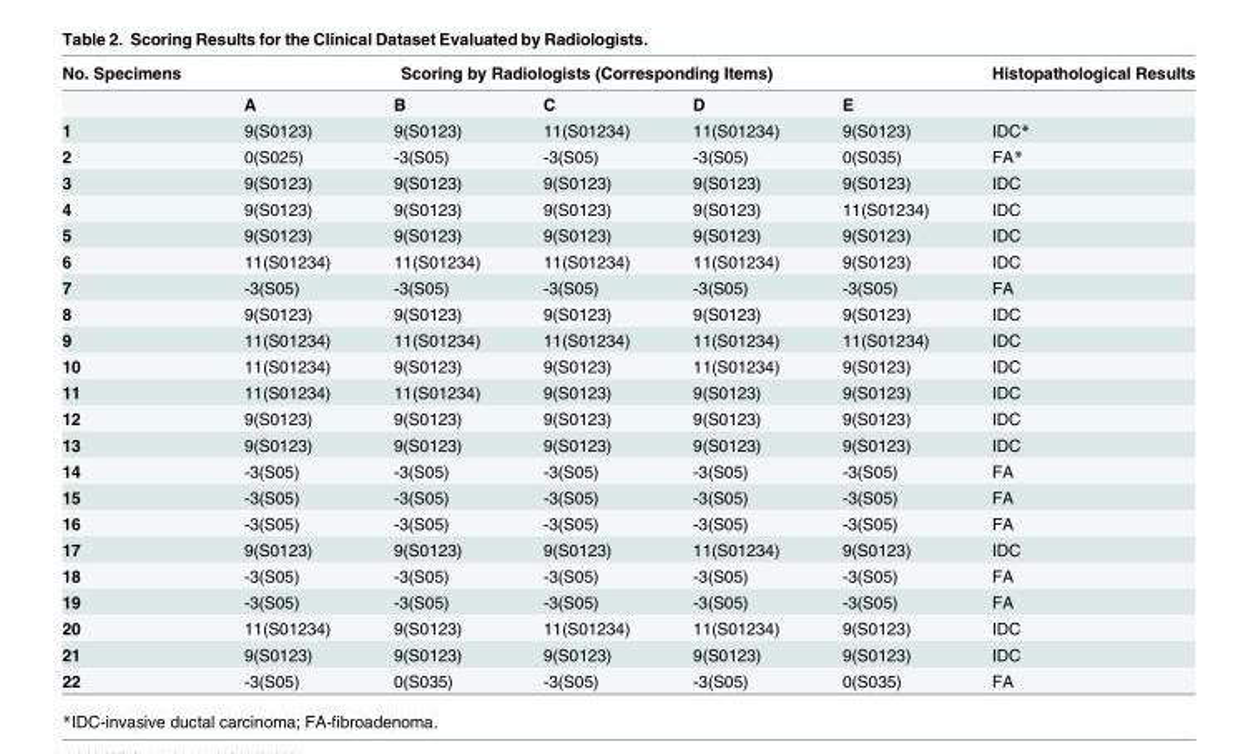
<table><thead><tr><td rowspan="2">No. Specimens</td><td colspan="5">Scoring by Radiologists (Corresponding Items)</td><td rowspan="2">Histopathological Results</td></tr><tr><td>A</td><td>B</td><td>C</td><td>D</td><td>E</td></tr></thead><tbody><tr><td>1</td><td>9(S0123)</td><td>9(S0123)</td><td>11(S01234)</td><td>11(S01234)</td><td>9(S0123)</td><td>IDC*</td></tr><tr><td>2</td><td>0(S025)</td><td>-3(S05)</td><td>-3(S05)</td><td>-3(S05)</td><td>0(S035)</td><td>FA*</td></tr><tr><td>3</td><td>9(S0123)</td><td>9(S0123)</td><td>9(S0123)</td><td>9(S0123)</td><td>9(S0123)</td><td>IDC</td></tr><tr><td>4</td><td>9(S0123)</td><td>9(S0123)</td><td>9(S0123)</td><td>9(S0123)</td><td>11(S01234)</td><td>IDC</td></tr><tr><td>5</td><td>9(S0123)</td><td>9(S0123)</td><td>9(S0123)</td><td>9(S0123)</td><td>9(S0123)</td><td>IDC</td></tr><tr><td>6</td><td>11(S01234)</td><td>11(S01234)</td><td>11(S01234)</td><td>11(S01234)</td><td>9(S0123)</td><td>IDC</td></tr><tr><td>7</td><td>-3(S05)</td><td>-3(S05)</td><td>-3(S05)</td><td>-3(S05)</td><td>-3(S05)</td><td>FA</td></tr><tr><td>8</td><td>9(S0123)</td><td>9(S0123)</td><td>9(S0123)</td><td>9(S0123)</td><td>9(S0123)</td><td>IDC</td></tr><tr><td>9</td><td>11(S01234)</td><td>11(S01234)</td><td>11(S01234)</td><td>11(S01234)</td><td>11(S01234)</td><td>IDC</td></tr><tr><td>10</td><td>11(S01234)</td><td>9(S0123)</td><td>9(S0123)</td><td>11(S01234)</td><td>9(S0123)</td><td>IDC</td></tr><tr><td>11</td><td>11(S01234)</td><td>11(S01234)</td><td>9(S0123)</td><td>9(S0123)</td><td>9(S0123)</td><td>IDC</td></tr><tr><td>12</td><td>9(S0123)</td><td>9(S0123)</td><td>9(S0123)</td><td>9(S0123)</td><td>9(S0123)</td><td>IDC</td></tr><tr><td>13</td><td>9(S0123)</td><td>9(S0123)</td><td>9(S0123)</td><td>9(S0123)</td><td>9(S0123)</td><td>IDC</td></tr><tr><td>14</td><td>-3(S05)</td><td>-3(S05)</td><td>-3(S05)</td><td>-3(S05)</td><td>-3(S05)</td><td>FA</td></tr><tr><td>15</td><td>-3(S05)</td><td>-3(S05)</td><td>-3(S05)</td><td>-3(S05)</td><td>-3(S05)</td><td>FA</td></tr><tr><td>16</td><td>-3(S05)</td><td>-3(S05)</td><td>-3(S05)</td><td>-3(S05)</td><td>-3(S05)</td><td>FA</td></tr><tr><td>17</td><td>9(S0123)</td><td>9(S0123)</td><td>9(S0123)</td><td>11(S01234)</td><td>9(S0123)</td><td>IDC</td></tr><tr><td>18</td><td>-3(S05)</td><td>-3(S05)</td><td>-3(S05)</td><td>-3(S05)</td><td>-3(S05)</td><td>FA</td></tr><tr><td>19</td><td>-3(S05)</td><td>-3(S05)</td><td>-3(S05)</td><td>-3(S05)</td><td>-3(S05)</td><td>FA</td></tr><tr><td>20</td><td>11(S01234)</td><td>9(S0123)</td><td>11(S01234)</td><td>11(S01234)</td><td>9(S0123)</td><td>IDC</td></tr><tr><td>21</td><td>9(S0123)</td><td>9(S0123)</td><td>9(S0123)</td><td>9(S0123)</td><td>9(S0123)</td><td>IDC</td></tr><tr><td>22</td><td>-3(S05)</td><td>0(S035)</td><td>-3(S05)</td><td>-3(S05)</td><td>0(S035)</td><td>FA</td></tr></tbody></table>